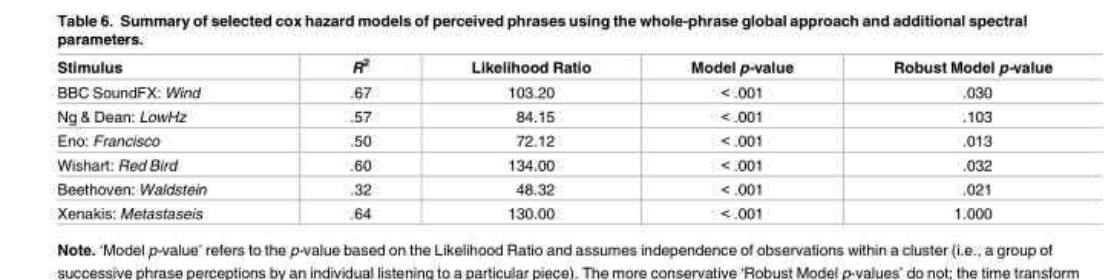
<table><thead><tr><td>Stimulus</td><td>R<sup>2</sup></td><td>Likelihood Ratio</td><td>Model p-value</td><td>Robust Model p-value</td></tr></thead><tbody><tr><td>BBC SoundFX: Wind</td><td>.67</td><td>103.20</td><td>&lt; .001</td><td>.030</td></tr><tr><td>Ng &amp; Dean: LowHz</td><td>.57</td><td>84.15</td><td>&lt; .001</td><td>.103</td></tr><tr><td>Eno: Francisco</td><td>.50</td><td>72.12</td><td>&lt; .001</td><td>.013</td></tr><tr><td>Wishart: Red Bird</td><td>.60</td><td>134.00</td><td>&lt; .001</td><td>.032</td></tr><tr><td>Beethoven: Waldstein</td><td>.32</td><td>48.32</td><td>&lt; .001</td><td>.021</td></tr><tr><td>Xenakis: Metastaseis</td><td>.64</td><td>130.00</td><td>&lt; .001</td><td>1.000</td></tr></tbody></table>